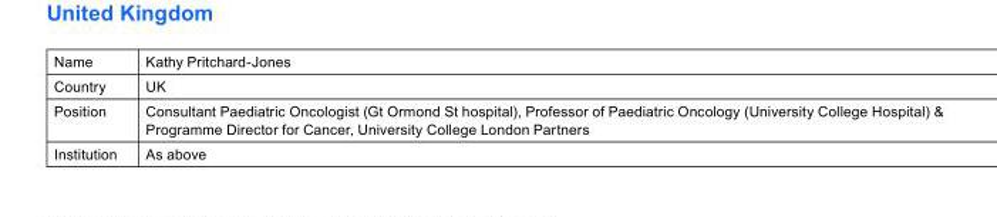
<table><tbody><tr><td>Name</td><td>Kathy Pritchard-Jones</td></tr><tr><td>Country</td><td>UK</td></tr><tr><td>Position</td><td>Consultant Paediatric Oncologist (Gt Ormond St hospital), Professor of Paediatric Oncology (University College Hospital) &amp; Programme Director for Cancer, University College London Partners</td></tr><tr><td>Institution</td><td>As above</td></tr></tbody></table>